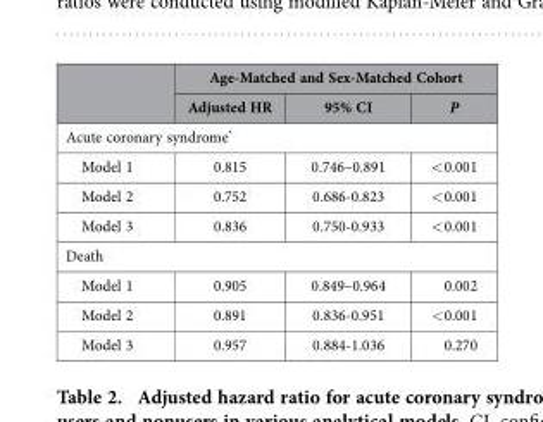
<table><thead><tr><td rowspan="2"></td><td colspan="3">Age-Matched and Sex-Matched Cohort</td></tr><tr><td>Adjusted HR</td><td>95% CI</td><td>P</td></tr></thead><tbody><tr><td colspan="4">Acute coronary syndrome*</td></tr><tr><td>Model 1</td><td>0.815</td><td>0.746–0.891</td><td>&lt; 0.001</td></tr><tr><td>Model 2</td><td>0.752</td><td>0.686-0.823</td><td>&lt; 0.001</td></tr><tr><td>Model 3</td><td>0.836</td><td>0.750-0.933</td><td>&lt; 0.001</td></tr><tr><td colspan="4">Death</td></tr><tr><td>Model 1</td><td>0.905</td><td>0.849–0.964</td><td>0.002</td></tr><tr><td>Model 2</td><td>0.891</td><td>0.836-0.951</td><td>&lt; 0.001</td></tr><tr><td>Model 3</td><td>0.957</td><td>0.884-1.036</td><td>0.270</td></tr></tbody></table>